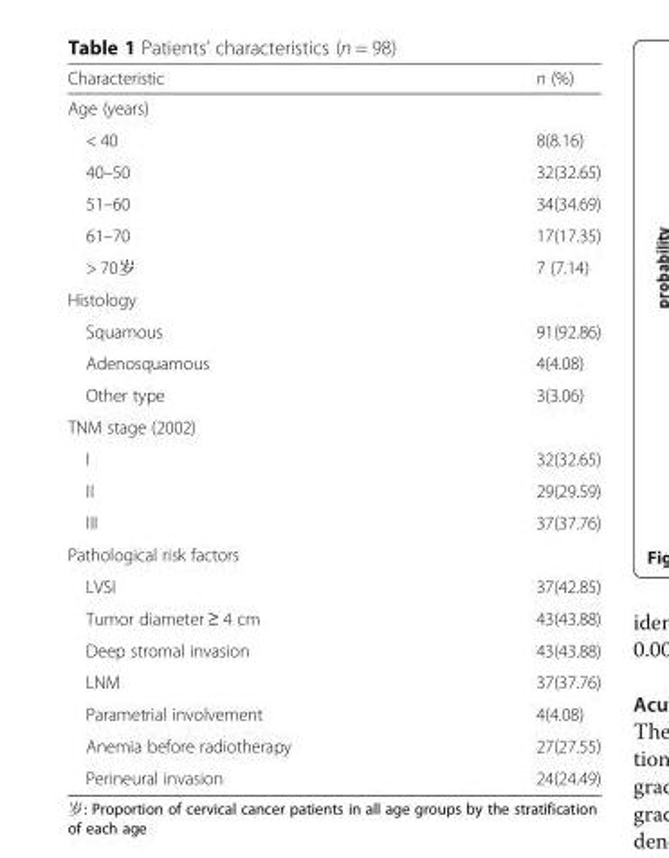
<table><thead><tr><td>Characteristic</td><td>n (%)</td></tr></thead><tbody><tr><td colspan="2">Age (years)</td></tr><tr><td>&lt; 40</td><td>8(8.16)</td></tr><tr><td>40–50</td><td>32(32.65)</td></tr><tr><td>51–60</td><td>34(34.69)</td></tr><tr><td>61–70</td><td>17(17.35)</td></tr><tr><td>&gt; 70岁</td><td>7 (7.14)</td></tr><tr><td colspan="2">Histology</td></tr><tr><td>Squamous</td><td>91(92.86)</td></tr><tr><td>Adenosquamous</td><td>4(4.08)</td></tr><tr><td>Other type</td><td>3(3.06)</td></tr><tr><td colspan="2">TNM stage (2002)</td></tr><tr><td>I</td><td>32(32.65)</td></tr><tr><td>II</td><td>29(29.59)</td></tr><tr><td>III</td><td>37(37.76)</td></tr><tr><td colspan="2">Pathological risk factors</td></tr><tr><td>LVSI</td><td>37(42.85)</td></tr><tr><td>Tumor diameter ≥ 4 cm</td><td>43(43.88)</td></tr><tr><td>Deep stromal invasion</td><td>43(43.88)</td></tr><tr><td>LNM</td><td>37(37.76)</td></tr><tr><td>Parametrial involvement</td><td>4(4.08)</td></tr><tr><td>Anemia before radiotherapy</td><td>27(27.55)</td></tr><tr><td>Perineural invasion</td><td>24(24.49)</td></tr></tbody></table>